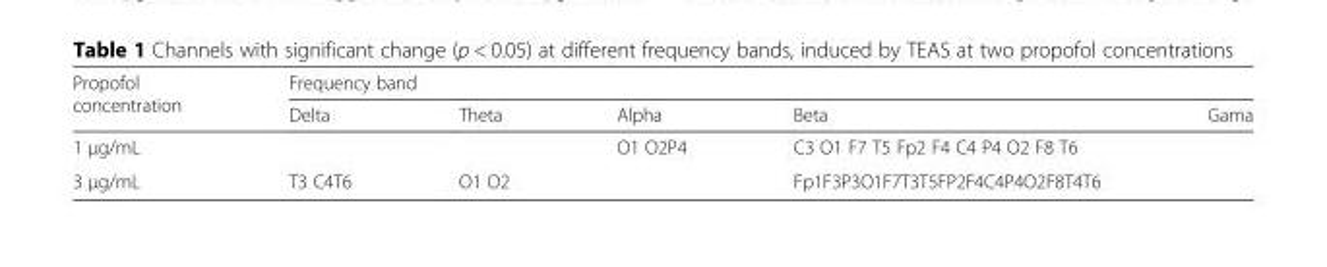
<table><thead><tr><td rowspan="2">Propofol concentration</td><td colspan="5">Frequency band</td></tr><tr><td>Delta</td><td>Theta</td><td>Alpha</td><td>Beta</td><td>Gama</td></tr></thead><tbody><tr><td>1 μg/mL</td><td></td><td></td><td>O1 O2P4</td><td>C3 O1 F7 T5 Fp2 F4 C4 P4 O2 F8 T6</td><td></td></tr><tr><td>3 μg/mL</td><td>T3 C4T6</td><td>O1 O2</td><td></td><td>Fp1F3P3O1F7T3T5FP2F4C4P4O2F8T4T6</td><td></td></tr></tbody></table>